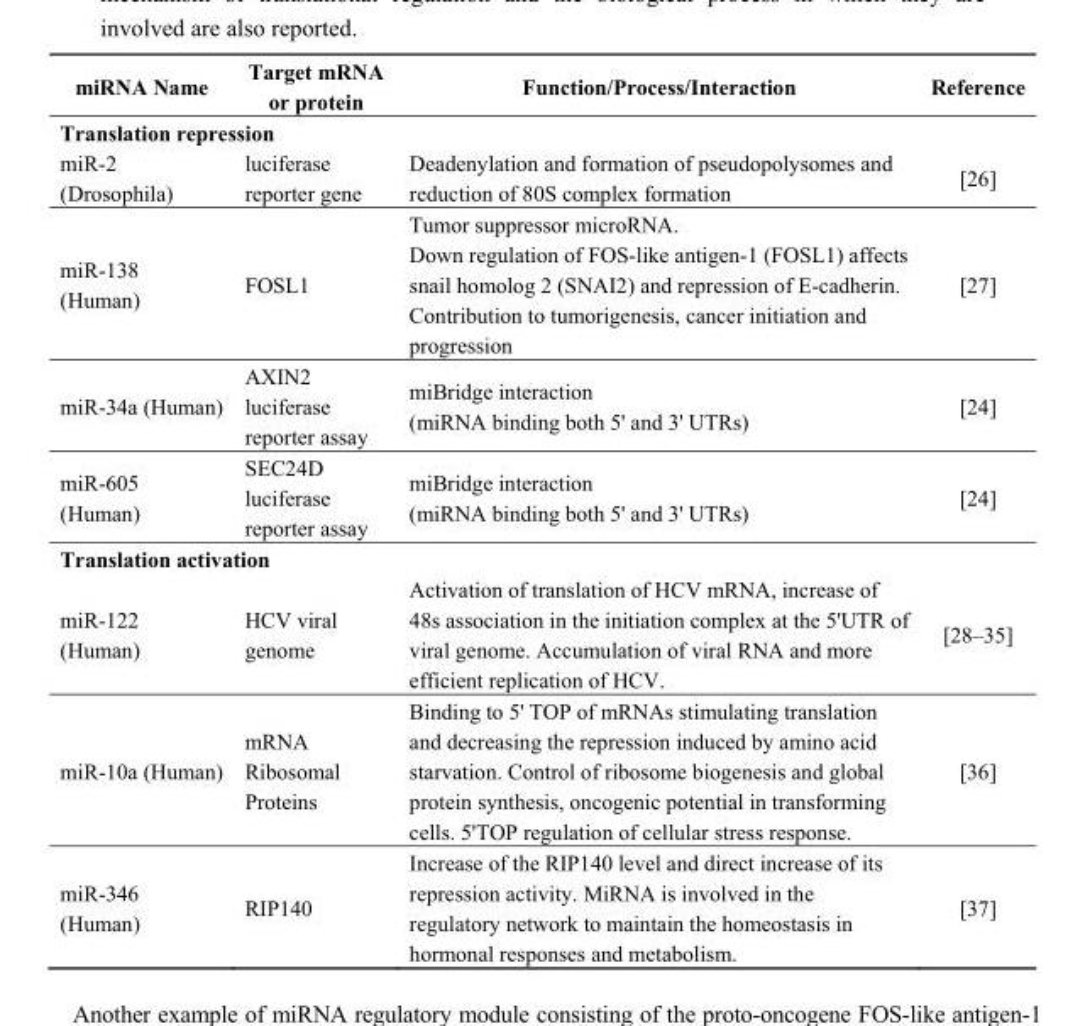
<table><thead><tr><td>miRNA Name</td><td>Target mRNA or protein</td><td>Function/Process/Interaction</td><td>Reference</td></tr></thead><tbody><tr><td colspan="4">Translation repression</td></tr><tr><td>miR-2 (Drosophila)</td><td>luciferase reporter gene</td><td>Deadenylation and formation of pseudopolysomes and reduction of 80S complex formation</td><td>[26]</td></tr><tr><td>miR-138 (Human)</td><td>FOSL1</td><td>Tumor suppressor microRNA. Down regulation of FOS-like antigen-1 (FOSL1) affects snail homolog 2 (SNAI2) and repression of E-cadherin. Contribution to tumorigenesis, cancer initiation and progression</td><td>[27]</td></tr><tr><td>miR-34a (Human)</td><td>AXIN2 luciferase reporter assay</td><td>miBridge interaction (miRNA binding both 5&#x27; and 3&#x27; UTRs)</td><td>[24]</td></tr><tr><td>miR-605 (Human)</td><td>SEC24D luciferase reporter assay</td><td>miBridge interaction (miRNA binding both 5&#x27; and 3&#x27; UTRs)</td><td>[24]</td></tr><tr><td colspan="4">Translation activation</td></tr><tr><td>miR-122 (Human)</td><td>HCV viral genome</td><td>Activation of translation of HCV mRNA, increase of 48s association in the initiation complex at the 5&#x27;UTR of viral genome. Accumulation of viral RNA and more efficient replication of HCV.</td><td>[28–35]</td></tr><tr><td>miR-10a (Human)</td><td>mRNA Ribosomal Proteins</td><td>Binding to 5&#x27; TOP of mRNAs stimulating translation and decreasing the repression induced by amino acid starvation. Control of ribosome biogenesis and global protein synthesis, oncogenic potential in transforming cells. 5&#x27;TOP regulation of cellular stress response.</td><td>[36]</td></tr><tr><td>miR-346 (Human)</td><td>RIP140</td><td>Increase of the RIP140 level and direct increase of its repression activity. MiRNA is involved in the regulatory network to maintain the homeostasis in hormonal responses and metabolism.</td><td>[37]</td></tr></tbody></table>